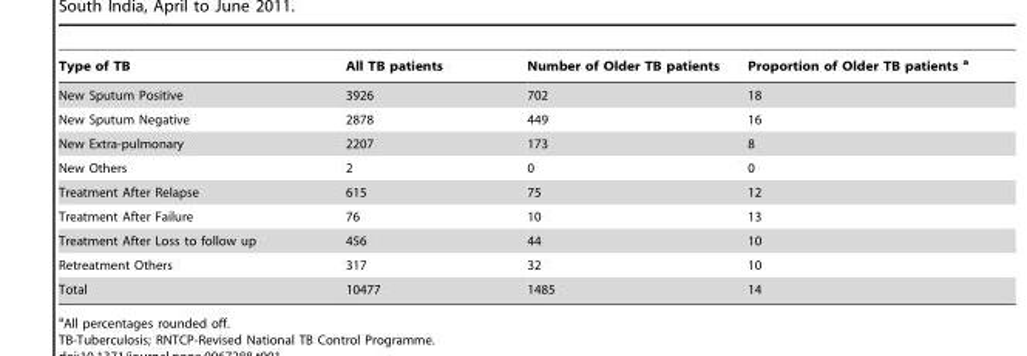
<table><thead><tr><td>Type of TB</td><td>All TB patients</td><td>Number of Older TB patients</td><td>Proportion of Older TB patients a</td></tr></thead><tbody><tr><td>New Sputum Positive</td><td>3926</td><td>702</td><td>18</td></tr><tr><td>New Sputum Negative</td><td>2878</td><td>449</td><td>16</td></tr><tr><td>New Extra-pulmonary</td><td>2207</td><td>173</td><td>8</td></tr><tr><td>New Others</td><td>2</td><td>0</td><td>0</td></tr><tr><td>Treatment After Relapse</td><td>615</td><td>75</td><td>12</td></tr><tr><td>Treatment After Failure</td><td>76</td><td>10</td><td>13</td></tr><tr><td>Treatment After Loss to follow up</td><td>456</td><td>44</td><td>10</td></tr><tr><td>Retreatment Others</td><td>317</td><td>32</td><td>10</td></tr><tr><td>Total</td><td>10477</td><td>1485</td><td>14</td></tr></tbody></table>